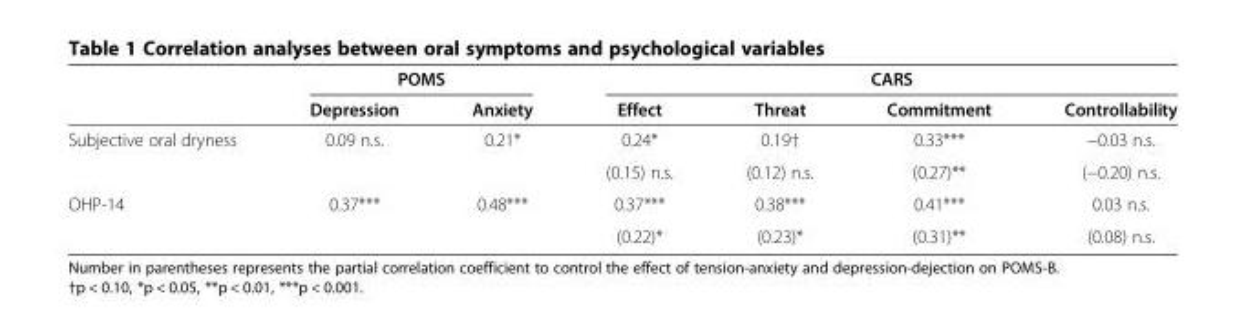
<table><thead><tr><td rowspan="2"></td><td colspan="2">POMS</td><td colspan="4">CARS</td></tr><tr><td>Depression</td><td>Anxiety</td><td>Effect</td><td>Threat</td><td>Commitment</td><td>Controllability</td></tr></thead><tbody><tr><td rowspan="2">Subjective oral dryness</td><td>0.09 n.s.</td><td>0.21*</td><td>0.24*</td><td>0.19†</td><td>0.33***</td><td>−0.03 n.s.</td></tr><tr><td></td><td></td><td>(0.15) n.s.</td><td>(0.12) n.s.</td><td>(0.27)**</td><td>(−0.20) n.s.</td></tr><tr><td rowspan="2">OHP-14</td><td>0.37***</td><td>0.48***</td><td>0.37***</td><td>0.38***</td><td>0.41***</td><td>0.03 n.s.</td></tr><tr><td></td><td></td><td>(0.22)*</td><td>(0.23)*</td><td>(0.31)**</td><td>(0.08) n.s.</td></tr></tbody></table>